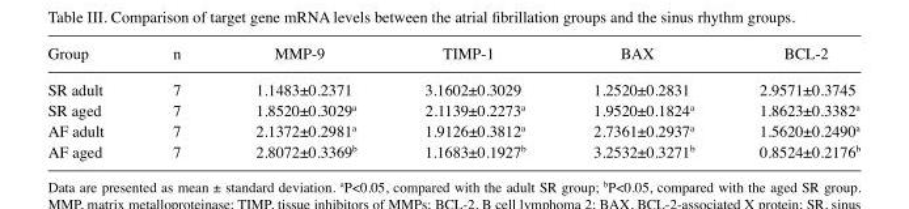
<table><thead><tr><td>Group</td><td>n</td><td>MMP-9</td><td>TIMP-1</td><td>BAX</td><td>BCL-2</td></tr></thead><tbody><tr><td>SR adult</td><td>7</td><td>1.1483±0.2371</td><td>3.1602±0.3029</td><td>1.2520±0.2831</td><td>2.9571±0.3745</td></tr><tr><td>SR aged</td><td>7</td><td>1.8520±0.3029<sup>a</sup></td><td>2.1139±0.2273<sup>a</sup></td><td>1.9520±0.1824<sup>a</sup></td><td>1.8623±0.3382<sup>a</sup></td></tr><tr><td>AF adult</td><td>7</td><td>2.1372±0.2981<sup>a</sup></td><td>1.9126±0.3812<sup>a</sup></td><td>2.7361±0.2937<sup>a</sup></td><td>1.5620±0.2490<sup>a</sup></td></tr><tr><td>AF aged</td><td>7</td><td>2.8072±0.3369<sup>b</sup></td><td>1.1683±0.1927<sup>b</sup></td><td>3.2532±0.3271<sup>b</sup></td><td>0.8524±0.2176<sup>b</sup></td></tr></tbody></table>